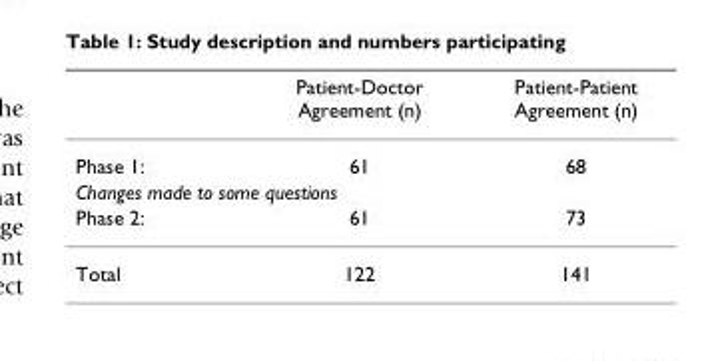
<table><thead><tr><td></td><td>Patient-Doctor Agreement (n)</td><td>Patient-Patient Agreement (n)</td></tr></thead><tbody><tr><td>Phase 1:</td><td>61</td><td>68</td></tr><tr><td colspan="3">Changes made to some questions</td></tr><tr><td>Phase 2:</td><td>61</td><td>73</td></tr><tr><td>Total</td><td>122</td><td>141</td></tr></tbody></table>